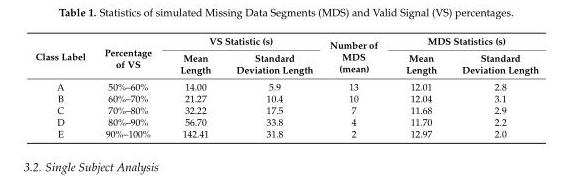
<table><thead><tr><td rowspan="2">Class Label</td><td rowspan="2">Percentage of VS</td><td colspan="2">VS Statistic (s)</td><td rowspan="2">Number of MDS (mean)</td><td colspan="2">MDS Statistics (s)</td></tr><tr><td>Mean Length</td><td>Standard Deviation Length</td><td>Mean Length</td><td>Standard Deviation Length</td></tr></thead><tbody><tr><td>A</td><td>50%–60%</td><td>14.00</td><td>5.9</td><td>13</td><td>12.01</td><td>2.8</td></tr><tr><td>B</td><td>60%–70%</td><td>21.27</td><td>10.4</td><td>10</td><td>12.04</td><td>3.1</td></tr><tr><td>C</td><td>70%–80%</td><td>32.22</td><td>17.5</td><td>7</td><td>11.68</td><td>2.9</td></tr><tr><td>D</td><td>80%–90%</td><td>56.70</td><td>33.8</td><td>4</td><td>11.70</td><td>2.2</td></tr><tr><td>E</td><td>90%–100%</td><td>142.41</td><td>31.8</td><td>2</td><td>12.97</td><td>2.0</td></tr></tbody></table>